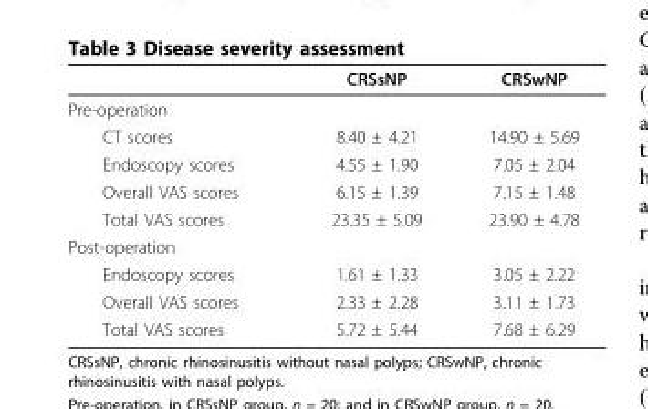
<table><thead><tr><td></td><td>CRSsNP</td><td>CRSwNP</td></tr></thead><tbody><tr><td colspan="3">Pre-operation</td></tr><tr><td>CT scores</td><td>8.40 ± 4.21</td><td>14.90 ± 5.69</td></tr><tr><td>Endoscopy scores</td><td>4.55 ± 1.90</td><td>7.05 ± 2.04</td></tr><tr><td>Overall VAS scores</td><td>6.15 ± 1.39</td><td>7.15 ± 1.48</td></tr><tr><td>Total VAS scores</td><td>23.35 ± 5.09</td><td>23.90 ± 4.78</td></tr><tr><td colspan="3">Post-operation</td></tr><tr><td>Endoscopy scores</td><td>1.61 ± 1.33</td><td>3.05 ± 2.22</td></tr><tr><td>Overall VAS scores</td><td>2.33 ± 2.28</td><td>3.11 ± 1.73</td></tr><tr><td>Total VAS scores</td><td>5.72 ± 5.44</td><td>7.68 ± 6.29</td></tr></tbody></table>